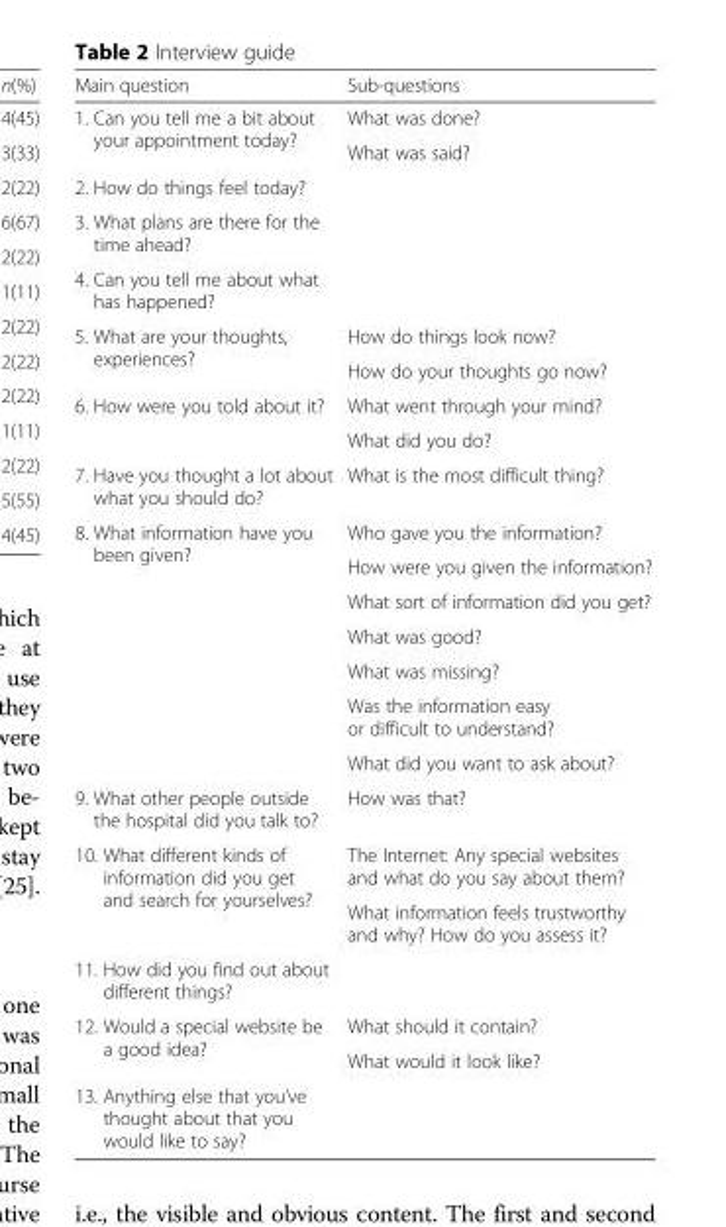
<table><thead><tr><td>Main question</td><td>Sub-questions</td></tr></thead><tbody><tr><td rowspan="2">1. Can you tell me a bit about your appointment today?</td><td>What was done?</td></tr><tr><td>What was said?</td></tr><tr><td colspan="2">2. How do things feel today?</td></tr><tr><td colspan="2">3. What plans are there for the time ahead?</td></tr><tr><td colspan="2">4. Can you tell me about what has happened?</td></tr><tr><td rowspan="2">5. What are your thoughts, experiences?</td><td>How do things look now?</td></tr><tr><td>How do your thoughts go now?</td></tr><tr><td rowspan="2">6. How were you told about it?</td><td>What went through your mind?</td></tr><tr><td>What did you do?</td></tr><tr><td>7. Have you thought a lot about what you should do?</td><td>What is the most difficult thing?</td></tr><tr><td rowspan="7">8. What information have you been given?</td><td>Who gave you the information?</td></tr><tr><td>How were you given the information?</td></tr><tr><td>What sort of information did you get?</td></tr><tr><td>What was good?</td></tr><tr><td>What was missing?</td></tr><tr><td>Was the information easy or difficult to understand?</td></tr><tr><td>What did you want to ask about?</td></tr><tr><td>9. What other people outside the hospital did you talk to?</td><td>How was that?</td></tr><tr><td rowspan="2">10. What different kinds of information did you get and search for yourselves?</td><td>The Internet: Any special websites and what do you say about them?</td></tr><tr><td>What information feels trustworthy and why? How do you assess it?</td></tr><tr><td colspan="2">11. How did you find out about different things?</td></tr><tr><td rowspan="2">12. Would a special website be a good idea?</td><td>What should it contain?</td></tr><tr><td>What would it look like?</td></tr><tr><td>13. Anything else that you’ve thought about that you would like to say?</td><td></td></tr></tbody></table>